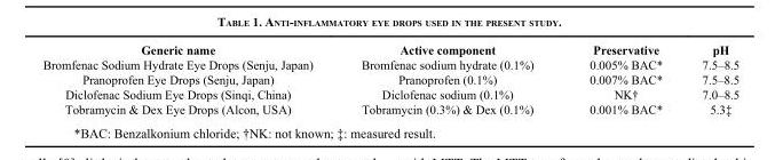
<table><thead><tr><td>Generic name</td><td>Active component</td><td>Preservative</td><td>pH</td></tr></thead><tbody><tr><td>Bromfenac Sodium Hydrate Eye Drops (Senju, Japan)</td><td>Bromfenac sodium hydrate (0.1%)</td><td>0.005% BAC*</td><td>7.5–8.5</td></tr><tr><td>Pranoprofen Eye Drops (Senju, Japan)</td><td>Pranoprofen (0.1%)</td><td>0.007% BAC*</td><td>7.5–8.5</td></tr><tr><td>Diclofenac Sodium Eye Drops (Sinqi, China)</td><td>Diclofenac sodium (0.1%)</td><td>NK†</td><td>7.0–8.5</td></tr><tr><td>Tobramycin &amp; Dex Eye Drops (Alcon, USA)</td><td>Tobramycin (0.3%) &amp; Dex (0.1%)</td><td>0.001% BAC*</td><td>5.3‡</td></tr></tbody></table>